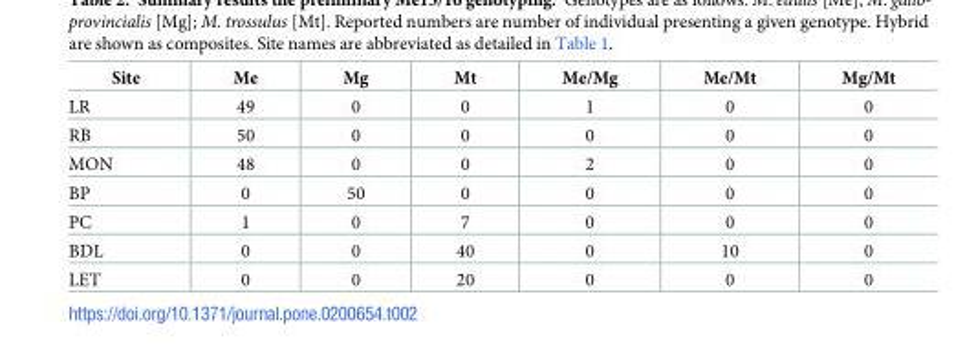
<table><thead><tr><td>Site</td><td>Me</td><td>Mg</td><td>Mt</td><td>Me/Mg</td><td>Me/Mt</td><td>Mg/Mt</td></tr></thead><tbody><tr><td>LR</td><td>49</td><td>0</td><td>0</td><td>1</td><td>0</td><td>0</td></tr><tr><td>RB</td><td>50</td><td>0</td><td>0</td><td>0</td><td>0</td><td>0</td></tr><tr><td>MON</td><td>48</td><td>0</td><td>0</td><td>2</td><td>0</td><td>0</td></tr><tr><td>BP</td><td>0</td><td>50</td><td>0</td><td>0</td><td>0</td><td>0</td></tr><tr><td>PC</td><td>1</td><td>0</td><td>7</td><td>0</td><td>0</td><td>0</td></tr><tr><td>BDL</td><td>0</td><td>0</td><td>40</td><td>0</td><td>10</td><td>0</td></tr><tr><td>LET</td><td>0</td><td>0</td><td>20</td><td>0</td><td>0</td><td>0</td></tr></tbody></table>